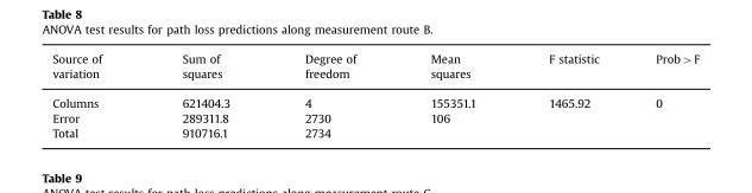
<table><thead><tr><td>Source of variation</td><td>Sum of squares</td><td>Degree of freedom</td><td>Mean squares</td><td>F statistic</td><td>Prob&gt;F</td></tr></thead><tbody><tr><td>Columns</td><td>621404.3</td><td>4</td><td>155351.1</td><td>1465.92</td><td>0</td></tr><tr><td>Error</td><td>289311.8</td><td>2730</td><td>106</td><td></td><td></td></tr><tr><td>Total</td><td>910716.1</td><td>2734</td><td></td><td></td><td></td></tr></tbody></table>